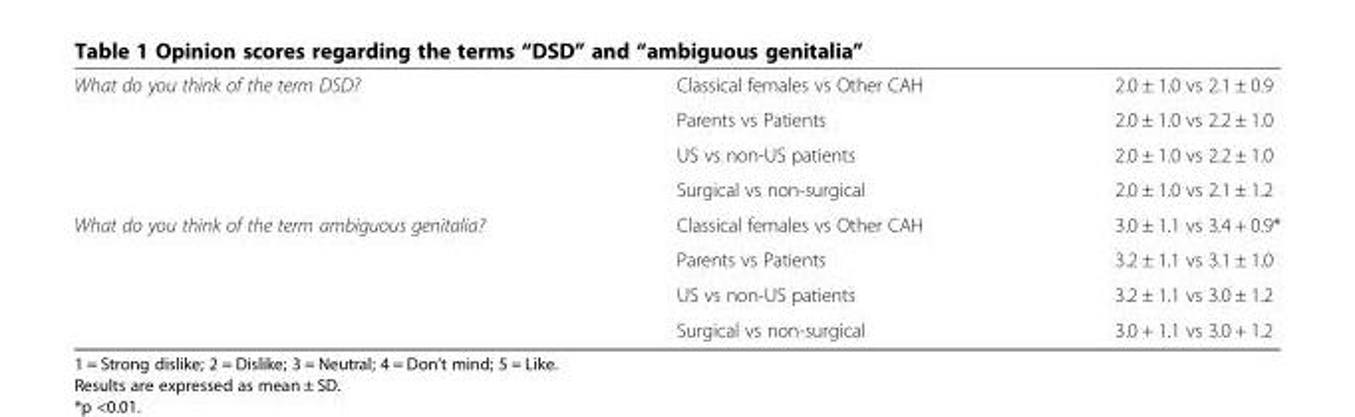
<table><tbody><tr><td rowspan="4">What do you think of the term DSD?</td><td>Classical females vs Other CAH</td><td>2.0 ± 1.0 vs 2.1 ± 0.9</td></tr><tr><td>Parents vs Patients</td><td>2.0 ± 1.0 vs 2.2 ± 1.0</td></tr><tr><td>US vs non-US patients</td><td>2.0 ± 1.0 vs 2.2 ± 1.0</td></tr><tr><td>Surgical vs non-surgical</td><td>2.0 ± 1.0 vs 2.1 ± 1.2</td></tr><tr><td rowspan="4">What do you think of the term ambiguous genitalia?</td><td>Classical females vs Other CAH</td><td>3.0 ± 1.1 vs 3.4 + 0.9*</td></tr><tr><td>Parents vs Patients</td><td>3.2 ± 1.1 vs 3.1 ± 1.0</td></tr><tr><td>US vs non-US patients</td><td>3.2 ± 1.1 vs 3.0 ± 1.2</td></tr><tr><td>Surgical vs non-surgical</td><td>3.0 + 1.1 vs 3.0 + 1.2</td></tr></tbody></table>